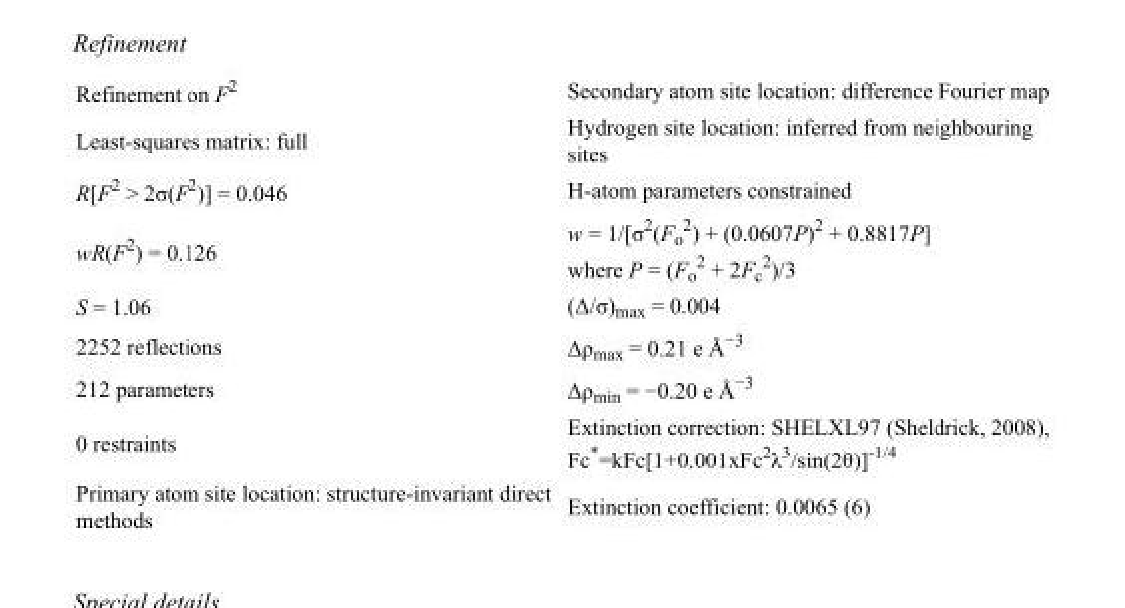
<table><tbody><tr><td>Refinement on F<sup>2</sup></td><td>Secondary atom site location: difference Fourier map</td></tr><tr><td>Least-squares matrix: full</td><td>Hydrogen site location: inferred from neighbouring sites</td></tr><tr><td>R[F<sup>2</sup> &gt; 2σ(F<sup>2</sup>)] = 0.046</td><td>H-atom parameters constrained</td></tr><tr><td>wR(F<sup>2</sup>) = 0.126</td><td>w = 1/[σ<sup>2</sup>(F<sub>o</sub> <sup>2</sup>) + (0.0607P)<sup>2</sup> + 0.8817P] where P = (F<sub>o</sub> <sup>2</sup> + 2F<sub>c</sub> <sup>2</sup>)/3</td></tr><tr><td>S = 1.06</td><td>(Δ/σ)<sub>max</sub> = 0.004</td></tr><tr><td>2252 reflections</td><td>Δρ<sub>max</sub> = 0.21 e Å<sup>−3</sup></td></tr><tr><td>212 parameters</td><td>Δρ<sub>min</sub> = −0.20 e Å<sup>−3</sup></td></tr><tr><td>0 restraints</td><td>Extinction correction: SHELXL97 (Sheldrick, 2008), Fc*=kFc[1+0.001xFc<sup>2</sup>λ<sup>3</sup>/sin(2θ)]<sup>-1/4</sup></td></tr><tr><td>Primary atom site location: structure-invariant direct methods</td><td>Extinction coefficient: 0.0065 (6)</td></tr></tbody></table>